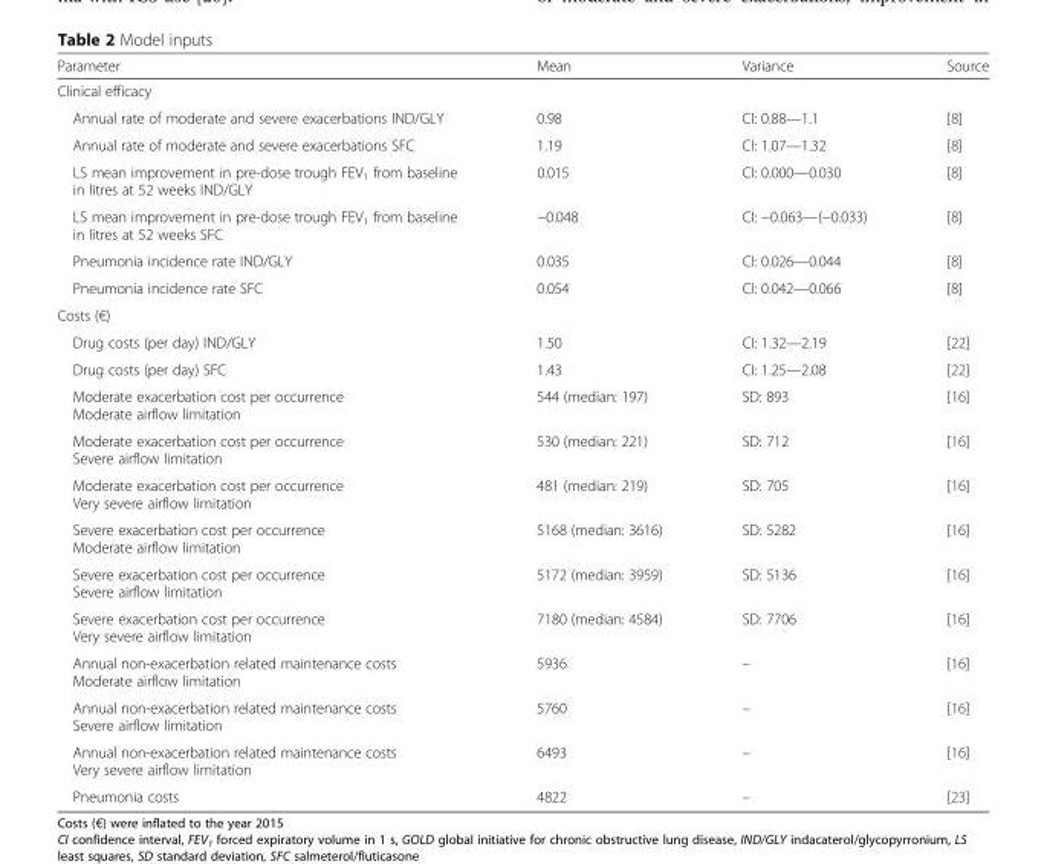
<table><thead><tr><td>Parameter</td><td>Mean</td><td>Variance</td><td>Source</td></tr></thead><tbody><tr><td colspan="4">Clinical efficacy</td></tr><tr><td>Annual rate of moderate and severe exacerbations IND/GLY</td><td>0.98</td><td>CI: 0.88—1.1</td><td>[8]</td></tr><tr><td>Annual rate of moderate and severe exacerbations SFC</td><td>1.19</td><td>CI: 1.07—1.32</td><td>[8]</td></tr><tr><td>LS mean improvement in pre-dose trough FEV<sub>1</sub> from baseline in litres at 52 weeks IND/GLY</td><td>0.015</td><td>CI: 0.000—0.030</td><td>[8]</td></tr><tr><td>LS mean improvement in pre-dose trough FEV<sub>1</sub> from baseline in litres at 52 weeks SFC</td><td>−0.048</td><td>CI: −0.063—(−0.033)</td><td>[8]</td></tr><tr><td>Pneumonia incidence rate IND/GLY</td><td>0.035</td><td>CI: 0.026—0.044</td><td>[8]</td></tr><tr><td>Pneumonia incidence rate SFC</td><td>0.054</td><td>CI: 0.042—0.066</td><td>[8]</td></tr><tr><td colspan="4">Costs (€)</td></tr><tr><td>Drug costs (per day) IND/GLY</td><td>1.50</td><td>CI: 1.32—2.19</td><td>[22]</td></tr><tr><td>Drug costs (per day) SFC</td><td>1.43</td><td>CI: 1.25—2.08</td><td>[22]</td></tr><tr><td>Moderate exacerbation cost per occurrence Moderate airflow limitation</td><td>544 (median: 197)</td><td>SD: 893</td><td>[16]</td></tr><tr><td>Moderate exacerbation cost per occurrence Severe airflow limitation</td><td>530 (median: 221)</td><td>SD: 712</td><td>[16]</td></tr><tr><td>Moderate exacerbation cost per occurrence Very severe airflow limitation</td><td>481 (median: 219)</td><td>SD: 705</td><td>[16]</td></tr><tr><td>Severe exacerbation cost per occurrence Moderate airflow limitation</td><td>5168 (median: 3616)</td><td>SD: 5282</td><td>[16]</td></tr><tr><td>Severe exacerbation cost per occurrence Severe airflow limitation</td><td>5172 (median: 3959)</td><td>SD: 5136</td><td>[16]</td></tr><tr><td>Severe exacerbation cost per occurrence Very severe airflow limitation</td><td>7180 (median: 4584)</td><td>SD: 7706</td><td>[16]</td></tr><tr><td>Annual non-exacerbation related maintenance costs Moderate airflow limitation</td><td>5936</td><td>–</td><td>[16]</td></tr><tr><td>Annual non-exacerbation related maintenance costs Severe airflow limitation</td><td>5760</td><td>–</td><td>[16]</td></tr><tr><td>Annual non-exacerbation related maintenance costs Very severe airflow limitation</td><td>6493</td><td>–</td><td>[16]</td></tr><tr><td>Pneumonia costs</td><td>4822</td><td>–</td><td>[23]</td></tr></tbody></table>